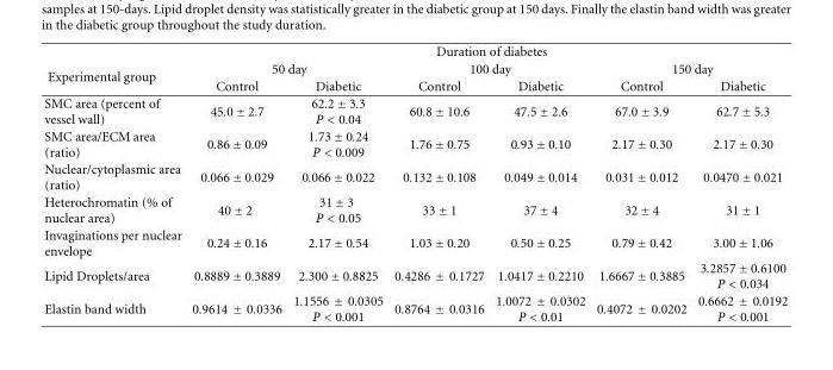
<table><thead><tr><td rowspan="3">Experimental group</td><td colspan="6">Duration of diabetes</td></tr><tr><td colspan="2">50 day</td><td colspan="2">100 day</td><td colspan="2">150 day</td></tr><tr><td>Control</td><td>Diabetic</td><td>Control</td><td>Diabetic</td><td>Control</td><td>Diabetic</td></tr></thead><tbody><tr><td>SMC area (percent of vessel wall)</td><td>45.0 ± 2.7</td><td>62.2 ± 3.3 P &lt; 0.04</td><td>60.8 ± 10.6</td><td>47.5 ± 2.6</td><td>67.0 ± 3.9</td><td>62.7 ± 5.3</td></tr><tr><td>SMC area/ECM area (ratio)</td><td>0.86 ± 0.09</td><td>1.73 ± 0.24 P &lt; 0.009</td><td>1.76 ± 0.75</td><td>0.93 ± 0.10</td><td>2.17 ± 0.30</td><td>2.17 ± 0.30</td></tr><tr><td>Nuclear/cytoplasmic area (ratio)</td><td>0.066 ± 0.029</td><td>0.066 ± 0.022</td><td>0.132 ± 0.108</td><td>0.049 ± 0.014</td><td>0.031 ± 0.012</td><td>0.0470 ± 0.021</td></tr><tr><td>Heterochromatin (% of nuclear area)</td><td>40 ± 2</td><td>31 ± 3 P &lt; 0.05</td><td>33 ± 1</td><td>37 ± 4</td><td>32 ± 4</td><td>31 ± 1</td></tr><tr><td>Invaginations per nuclear envelope</td><td>0.24 ± 0.16</td><td>2.17 ± 0.54</td><td>1.03 ± 0.20</td><td>0.50 ± 0.25</td><td>0.79 ± 0.42</td><td>3.00 ± 1.06</td></tr><tr><td>Lipid Droplets/area</td><td>0.8889 ± 0.3889</td><td>2.300 ± 0.8825</td><td>0.4286 ± 0.1727</td><td>1.0417 ± 0.2210</td><td>1.6667 ± 0.3885</td><td>3.2857 ± 0.6100 P &lt; 0.034</td></tr><tr><td>Elastin band width</td><td>0.9614 ± 0.0336</td><td>1.1556 ± 0.0305 P &lt; 0.001</td><td>0.8764 ± 0.0316</td><td>1.0072 ± 0.0302 P &lt; 0.01</td><td>0.4072 ± 0.0202</td><td>0.6662 ± 0.0192 P &lt; 0.001</td></tr></tbody></table>